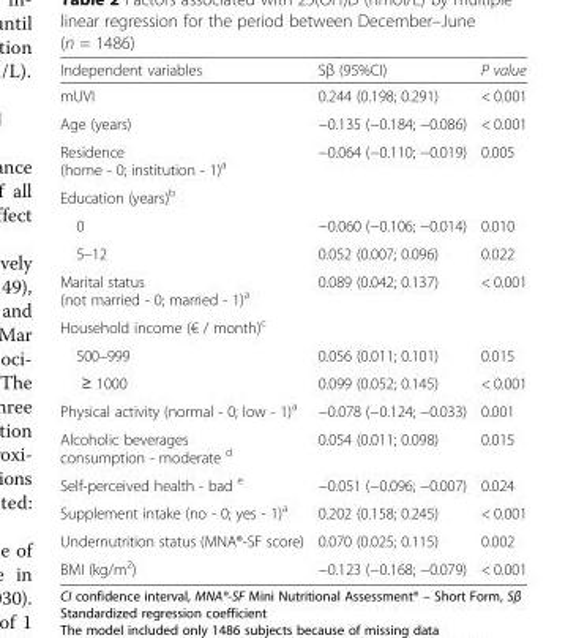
<table><thead><tr><td>Independent variables</td><td>Sβ (95%CI)</td><td>P value</td></tr></thead><tbody><tr><td>mUVI</td><td>0.244 (0.198; 0.291)</td><td>&lt; 0.001</td></tr><tr><td>Age (years)</td><td>−0.135 (−0.184; −0.086)</td><td>&lt; 0.001</td></tr><tr><td>Residence (home - 0; institution - 1)<sup>a</sup></td><td>−0.064 (−0.110; −0.019)</td><td>0.005</td></tr><tr><td colspan="3">Education (years)<sup>b</sup></td></tr><tr><td>0</td><td>−0.060 (−0.106; −0.014)</td><td>0.010</td></tr><tr><td>5–12</td><td>0.052 (0.007; 0.096)</td><td>0.022</td></tr><tr><td>Marital status (not married - 0; married - 1)<sup>a</sup></td><td>0.089 (0.042; 0.137)</td><td>&lt; 0.001</td></tr><tr><td colspan="3">Household income (€ / month)<sup>c</sup></td></tr><tr><td>500–999</td><td>0.056 (0.011; 0.101)</td><td>0.015</td></tr><tr><td>≥ 1000</td><td>0.099 (0.052; 0.145)</td><td>&lt; 0.001</td></tr><tr><td>Physical activity (normal - 0; low - 1)<sup>a</sup></td><td>−0.078 (−0.124; −0.033)</td><td>0.001</td></tr><tr><td>Alcoholic beverages consumption - moderate <sup>d</sup></td><td>0.054 (0.011; 0.098)</td><td>0.015</td></tr><tr><td>Self-perceived health - bad <sup>e</sup></td><td>−0.051 (−0.096; −0.007)</td><td>0.024</td></tr><tr><td>Supplement intake (no - 0; yes - 1)<sup>a</sup></td><td>0.202 (0.158; 0.245)</td><td>&lt; 0.001</td></tr><tr><td>Undernutrition status (MNA®-SF score)</td><td>0.070 (0.025; 0.115)</td><td>0.002</td></tr><tr><td>BMI (kg/m<sup>2</sup>)</td><td>−0.123 (−0.168; −0.079)</td><td>&lt; 0.001</td></tr></tbody></table>